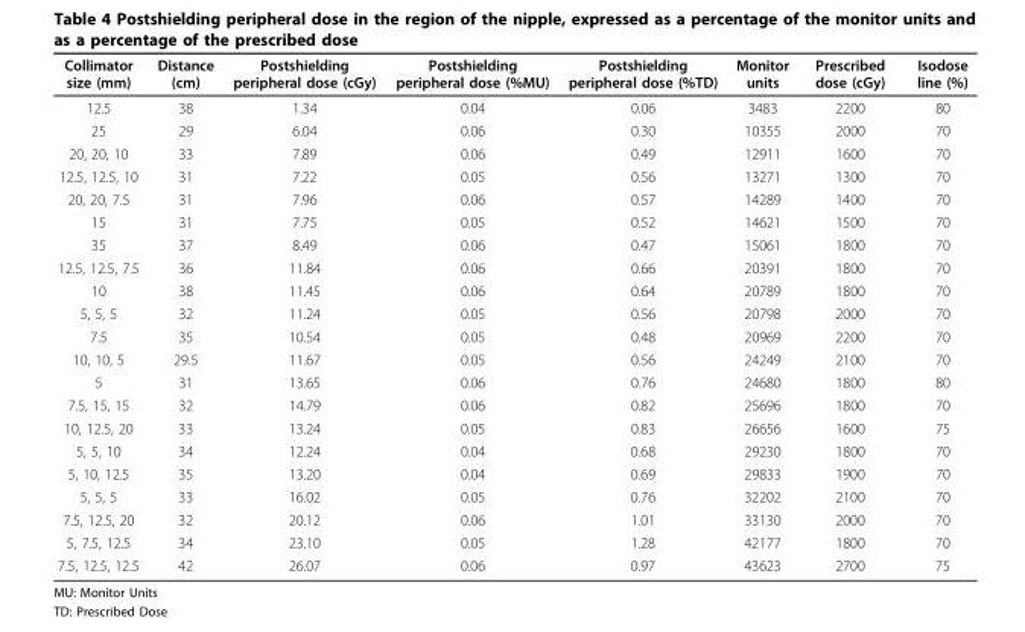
<table><thead><tr><td>Collimator size (mm)</td><td>Distance (cm)</td><td>Postshielding peripheral dose (cGy)</td><td>Postshielding peripheral dose (%MU)</td><td>Postshielding peripheral dose (%TD)</td><td>Monitor units</td><td>Prescribed dose (cGy)</td><td>Isodose line (%)</td></tr></thead><tbody><tr><td>12.5</td><td>38</td><td>1.34</td><td>0.04</td><td>0.06</td><td>3483</td><td>2200</td><td>80</td></tr><tr><td>25</td><td>29</td><td>6.04</td><td>0.06</td><td>0.30</td><td>10355</td><td>2000</td><td>70</td></tr><tr><td>20, 20, 10</td><td>33</td><td>7.89</td><td>0.06</td><td>0.49</td><td>12911</td><td>1600</td><td>70</td></tr><tr><td>12.5, 12.5, 10</td><td>31</td><td>7.22</td><td>0.05</td><td>0.56</td><td>13271</td><td>1300</td><td>70</td></tr><tr><td>20, 20, 7.5</td><td>31</td><td>7.96</td><td>0.06</td><td>0.57</td><td>14289</td><td>1400</td><td>70</td></tr><tr><td>15</td><td>31</td><td>7.75</td><td>0.05</td><td>0.52</td><td>14621</td><td>1500</td><td>70</td></tr><tr><td>35</td><td>37</td><td>8.49</td><td>0.06</td><td>0.47</td><td>15061</td><td>1800</td><td>70</td></tr><tr><td>12.5, 12.5, 7.5</td><td>36</td><td>11.84</td><td>0.06</td><td>0.66</td><td>20391</td><td>1800</td><td>70</td></tr><tr><td>10</td><td>38</td><td>11.45</td><td>0.06</td><td>0.64</td><td>20789</td><td>1800</td><td>70</td></tr><tr><td>5, 5, 5</td><td>32</td><td>11.24</td><td>0.05</td><td>0.56</td><td>20798</td><td>2000</td><td>70</td></tr><tr><td>7.5</td><td>35</td><td>10.54</td><td>0.05</td><td>0.48</td><td>20969</td><td>2200</td><td>70</td></tr><tr><td>10, 10, 5</td><td>29.5</td><td>11.67</td><td>0.05</td><td>0.56</td><td>24249</td><td>2100</td><td>70</td></tr><tr><td>5</td><td>31</td><td>13.65</td><td>0.06</td><td>0.76</td><td>24680</td><td>1800</td><td>80</td></tr><tr><td>7.5, 15, 15</td><td>32</td><td>14.79</td><td>0.06</td><td>0.82</td><td>25696</td><td>1800</td><td>70</td></tr><tr><td>10, 12.5, 20</td><td>33</td><td>13.24</td><td>0.05</td><td>0.83</td><td>26656</td><td>1600</td><td>75</td></tr><tr><td>5, 5, 10</td><td>34</td><td>12.24</td><td>0.04</td><td>0.68</td><td>29230</td><td>1800</td><td>70</td></tr><tr><td>5, 10, 12.5</td><td>35</td><td>13.20</td><td>0.04</td><td>0.69</td><td>29833</td><td>1900</td><td>70</td></tr><tr><td>5, 5, 5</td><td>33</td><td>16.02</td><td>0.05</td><td>0.76</td><td>32202</td><td>2100</td><td>70</td></tr><tr><td>7.5, 12.5, 20</td><td>32</td><td>20.12</td><td>0.06</td><td>1.01</td><td>33130</td><td>2000</td><td>70</td></tr><tr><td>5, 7.5, 12.5</td><td>34</td><td>23.10</td><td>0.05</td><td>1.28</td><td>42177</td><td>1800</td><td>70</td></tr><tr><td>7.5, 12.5, 12.5</td><td>42</td><td>26.07</td><td>0.06</td><td>0.97</td><td>43623</td><td>2700</td><td>75</td></tr></tbody></table>